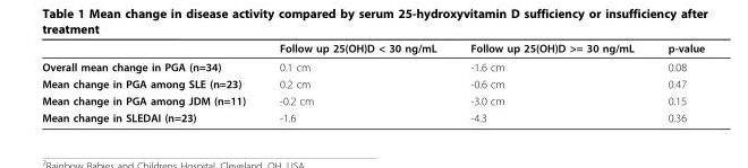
<table><thead><tr><td></td><td>Follow up 25(OH)D &lt; 30 ng/mL</td><td>Follow up 25(OH)D &gt;= 30 ng/mL</td><td>p-value</td></tr></thead><tbody><tr><td>Overall mean change in PGA (n=34)</td><td>0.1 cm</td><td>-1.6 cm</td><td>0.08</td></tr><tr><td>Mean change in PGA among SLE (n=23)</td><td>0.2 cm</td><td>-0.6 cm</td><td>0.47</td></tr><tr><td>Mean change in PGA among JDM (n=11)</td><td>-0.2 cm</td><td>-3.0 cm</td><td>0.15</td></tr><tr><td>Mean change in SLEDAI (n=23)</td><td>-1.6</td><td>-4.3</td><td>0.36</td></tr></tbody></table>